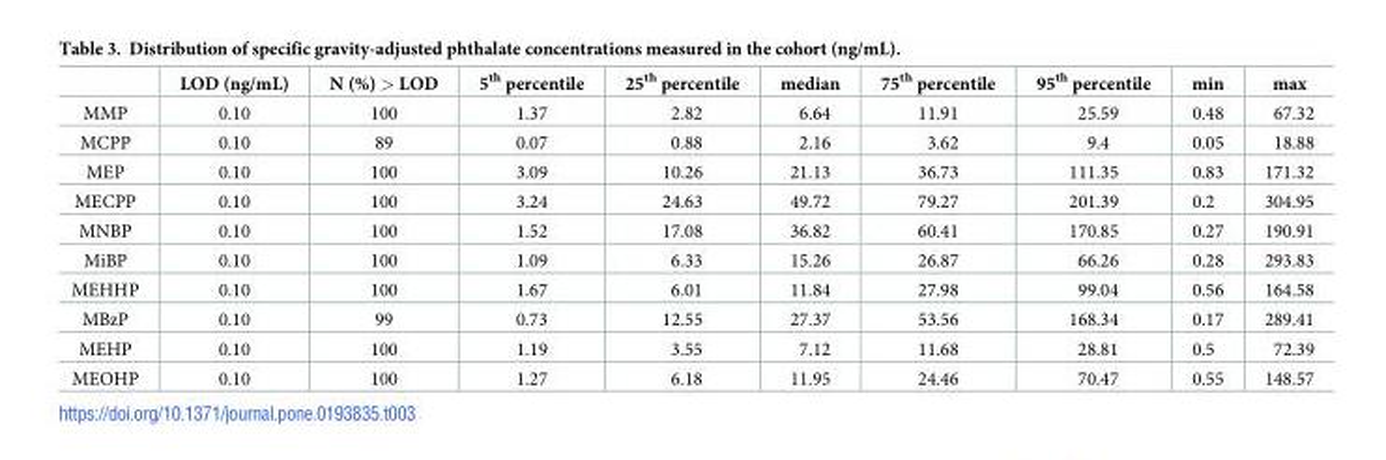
<table><thead><tr><td></td><td>LOD (ng/mL)</td><td>N (%) &gt; LOD</td><td>5<sup>th</sup> percentile</td><td>25<sup>th</sup> percentile</td><td>median</td><td>75<sup>th</sup> percentile</td><td>95<sup>th</sup> percentile</td><td>min</td><td>max</td></tr></thead><tbody><tr><td>MMP</td><td>0.10</td><td>100</td><td>1.37</td><td>2.82</td><td>6.64</td><td>11.91</td><td>25.59</td><td>0.48</td><td>67.32</td></tr><tr><td>MCPP</td><td>0.10</td><td>89</td><td>0.07</td><td>0.88</td><td>2.16</td><td>3.62</td><td>9.4</td><td>0.05</td><td>18.88</td></tr><tr><td>MEP</td><td>0.10</td><td>100</td><td>3.09</td><td>10.26</td><td>21.13</td><td>36.73</td><td>111.35</td><td>0.83</td><td>171.32</td></tr><tr><td>MECPP</td><td>0.10</td><td>100</td><td>3.24</td><td>24.63</td><td>49.72</td><td>79.27</td><td>201.39</td><td>0.2</td><td>304.95</td></tr><tr><td>MNBP</td><td>0.10</td><td>100</td><td>1.52</td><td>17.08</td><td>36.82</td><td>60.41</td><td>170.85</td><td>0.27</td><td>190.91</td></tr><tr><td>MiBP</td><td>0.10</td><td>100</td><td>1.09</td><td>6.33</td><td>15.26</td><td>26.87</td><td>66.26</td><td>0.28</td><td>293.83</td></tr><tr><td>MEHHP</td><td>0.10</td><td>100</td><td>1.67</td><td>6.01</td><td>11.84</td><td>27.98</td><td>99.04</td><td>0.56</td><td>164.58</td></tr><tr><td>MBzP</td><td>0.10</td><td>99</td><td>0.73</td><td>12.55</td><td>27.37</td><td>53.56</td><td>168.34</td><td>0.17</td><td>289.41</td></tr><tr><td>MEHP</td><td>0.10</td><td>100</td><td>1.19</td><td>3.55</td><td>7.12</td><td>11.68</td><td>28.81</td><td>0.5</td><td>72.39</td></tr><tr><td>MEOHP</td><td>0.10</td><td>100</td><td>1.27</td><td>6.18</td><td>11.95</td><td>24.46</td><td>70.47</td><td>0.55</td><td>148.57</td></tr></tbody></table>